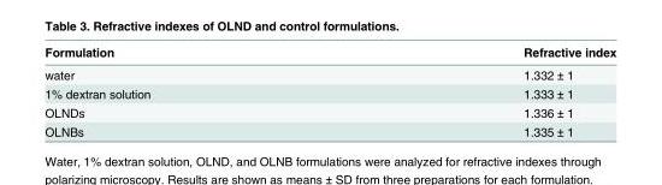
<table><thead><tr><td>Formulation</td><td>Refractive index</td></tr></thead><tbody><tr><td>water</td><td>1.332 ± 1</td></tr><tr><td>1% dextran solution</td><td>1.333 ± 1</td></tr><tr><td>OLNDs</td><td>1.336 ± 1</td></tr><tr><td>OLNBs</td><td>1.335 ± 1</td></tr></tbody></table>